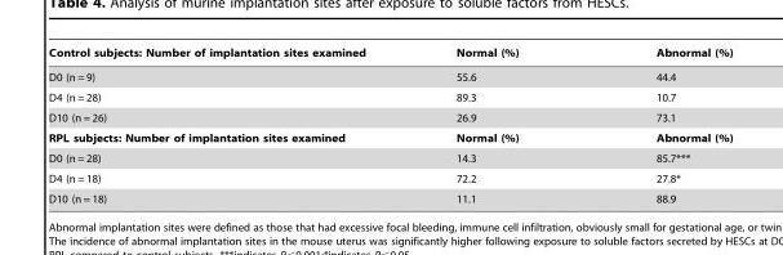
<table><thead><tr><td>Control subjects: Number of implantation sites examined</td><td>Normal (%)</td><td>Abnormal (%)</td></tr></thead><tbody><tr><td>D0 (n = 9)</td><td>55.6</td><td>44.4</td></tr><tr><td>D4 (n = 28)</td><td>89.3</td><td>10.7</td></tr><tr><td>D10 (n = 26)</td><td>26.9</td><td>73.1</td></tr><tr><td>RPL subjects: Number of implantation sites examined</td><td>Normal (%)</td><td>Abnormal (%)</td></tr><tr><td>D0 (n = 28)</td><td>14.3</td><td>85.7***</td></tr><tr><td>D4 (n = 18)</td><td>72.2</td><td>27.8*</td></tr><tr><td>D10 (n = 18)</td><td>11.1</td><td>88.9</td></tr></tbody></table>